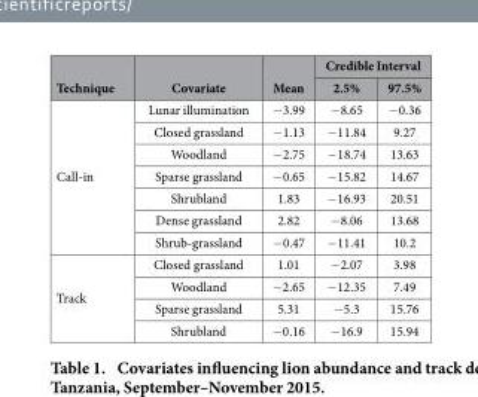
<table><thead><tr><td rowspan="2">Technique</td><td rowspan="2">Covariate</td><td rowspan="2">Mean</td><td colspan="2">Credible Interval</td></tr><tr><td>2.5%</td><td>97.5%</td></tr></thead><tbody><tr><td rowspan="7">Call-in</td><td>Lunar illumination</td><td>− 3.99</td><td>− 8.65</td><td>− 0.36</td></tr><tr><td>Closed grassland</td><td>− 1.13</td><td>− 11.84</td><td>9.27</td></tr><tr><td>Woodland</td><td>− 2.75</td><td>− 18.74</td><td>13.63</td></tr><tr><td>Sparse grassland</td><td>− 0.65</td><td>− 15.82</td><td>14.67</td></tr><tr><td>Shrubland</td><td>1.83</td><td>− 16.93</td><td>20.51</td></tr><tr><td>Dense grassland</td><td>2.82</td><td>− 8.06</td><td>13.68</td></tr><tr><td>Shrub-grassland</td><td>− 0.47</td><td>− 11.41</td><td>10.2</td></tr><tr><td rowspan="4">Track</td><td>Closed grassland</td><td>1.01</td><td>− 2.07</td><td>3.98</td></tr><tr><td>Woodland</td><td>− 2.65</td><td>− 12.35</td><td>7.49</td></tr><tr><td>Sparse grassland</td><td>5.31</td><td>− 5.3</td><td>15.76</td></tr><tr><td>Shrubland</td><td>− 0.16</td><td>− 16.9</td><td>15.94</td></tr></tbody></table>